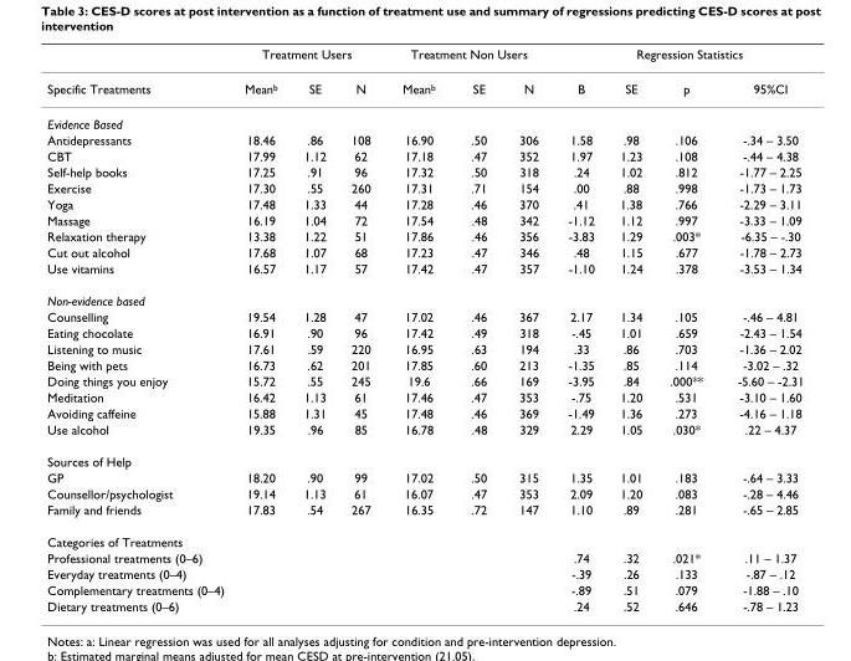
<table><thead><tr><td rowspan="2">Specific Treatments</td><td colspan="3">Treatment Users</td><td colspan="3">Treatment Non Users</td><td colspan="4">Regression Statistics</td></tr><tr><td>Mean<sup>b</sup></td><td>SE</td><td>N</td><td>Mean<sup>b</sup></td><td>SE</td><td>N</td><td>B</td><td>SE</td><td>p</td><td>95%CI</td></tr></thead><tbody><tr><td colspan="11">Evidence Based</td></tr><tr><td>Antidepressants</td><td>18.46</td><td>.86</td><td>108</td><td>16.90</td><td>.50</td><td>306</td><td>1.58</td><td>.98</td><td>.106</td><td>-.34 – 3.50</td></tr><tr><td>CBT</td><td>17.99</td><td>1.12</td><td>62</td><td>17.18</td><td>.47</td><td>352</td><td>1.97</td><td>1.23</td><td>.108</td><td>-.44 – 4.38</td></tr><tr><td>Self-help books</td><td>17.25</td><td>.91</td><td>96</td><td>17.32</td><td>.50</td><td>318</td><td>.24</td><td>1.02</td><td>.812</td><td>-1.77 – 2.25</td></tr><tr><td>Exercise</td><td>17.30</td><td>.55</td><td>260</td><td>17.31</td><td>.71</td><td>154</td><td>.00</td><td>.88</td><td>.998</td><td>-1.73 – 1.73</td></tr><tr><td>Yoga</td><td>17.48</td><td>1.33</td><td>44</td><td>17.28</td><td>.46</td><td>370</td><td>.41</td><td>1.38</td><td>.766</td><td>-2.29 – 3.11</td></tr><tr><td>Massage</td><td>16.19</td><td>1.04</td><td>72</td><td>17.54</td><td>.48</td><td>342</td><td>-1.12</td><td>1.12</td><td>.997</td><td>-3.33 – 1.09</td></tr><tr><td>Relaxation therapy</td><td>13.38</td><td>1.22</td><td>51</td><td>17.86</td><td>.46</td><td>356</td><td>-3.83</td><td>1.29</td><td>.003*</td><td>-6.35 – -.30</td></tr><tr><td>Cut out alcohol</td><td>17.68</td><td>1.07</td><td>68</td><td>17.23</td><td>.47</td><td>346</td><td>.48</td><td>1.15</td><td>.677</td><td>-1.78 – 2.73</td></tr><tr><td>Use vitamins</td><td>16.57</td><td>1.17</td><td>57</td><td>17.42</td><td>.47</td><td>357</td><td>-1.10</td><td>1.24</td><td>.378</td><td>-3.53 – 1.34</td></tr><tr><td colspan="11">Non-evidence based</td></tr><tr><td>Counselling</td><td>19.54</td><td>1.28</td><td>47</td><td>17.02</td><td>.46</td><td>367</td><td>2.17</td><td>1.34</td><td>.105</td><td>-.46 – 4.81</td></tr><tr><td>Eating chocolate</td><td>16.91</td><td>.90</td><td>96</td><td>17.42</td><td>.49</td><td>318</td><td>-.45</td><td>1.01</td><td>.659</td><td>-2.43 – 1.54</td></tr><tr><td>Listening to music</td><td>17.61</td><td>.59</td><td>220</td><td>16.95</td><td>.63</td><td>194</td><td>.33</td><td>.86</td><td>.703</td><td>-1.36 – 2.02</td></tr><tr><td>Being with pets</td><td>16.73</td><td>.62</td><td>201</td><td>17.85</td><td>.60</td><td>213</td><td>-1.35</td><td>.85</td><td>.114</td><td>-3.02 – .32</td></tr><tr><td>Doing things you enjoy</td><td>15.72</td><td>.55</td><td>245</td><td>19.6</td><td>.66</td><td>169</td><td>-3.95</td><td>.84</td><td>.000**</td><td>-5.60 – -2.31</td></tr><tr><td>Meditation</td><td>16.42</td><td>1.13</td><td>61</td><td>17.46</td><td>.47</td><td>353</td><td>-.75</td><td>1.20</td><td>.531</td><td>-3.10 – 1.60</td></tr><tr><td>Avoiding caffeine</td><td>15.88</td><td>1.31</td><td>45</td><td>17.48</td><td>.46</td><td>369</td><td>-1.49</td><td>1.36</td><td>.273</td><td>-4.16 – 1.18</td></tr><tr><td>Use alcohol</td><td>19.35</td><td>.96</td><td>85</td><td>16.78</td><td>.48</td><td>329</td><td>2.29</td><td>1.05</td><td>.030*</td><td>.22 – 4.37</td></tr><tr><td colspan="11">Sources of Help</td></tr><tr><td>GP</td><td>18.20</td><td>.90</td><td>99</td><td>17.02</td><td>.50</td><td>315</td><td>1.35</td><td>1.01</td><td>.183</td><td>-.64 – 3.33</td></tr><tr><td>Counsellor/psychologist</td><td>19.14</td><td>1.13</td><td>61</td><td>16.07</td><td>.47</td><td>353</td><td>2.09</td><td>1.20</td><td>.083</td><td>-.28 – 4.46</td></tr><tr><td>Family and friends</td><td>17.83</td><td>.54</td><td>267</td><td>16.35</td><td>.72</td><td>147</td><td>1.10</td><td>.89</td><td>.281</td><td>-.65 – 2.85</td></tr><tr><td colspan="11">Categories of Treatments</td></tr><tr><td>Professional treatments (0–6)</td><td></td><td></td><td></td><td></td><td></td><td></td><td>.74</td><td>.32</td><td>.021*</td><td>.11 – 1.37</td></tr><tr><td>Everyday treatments (0–4)</td><td></td><td></td><td></td><td></td><td></td><td></td><td>-.39</td><td>.26</td><td>.133</td><td>-.87 – .12</td></tr><tr><td>Complementary treatments (0–4)</td><td></td><td></td><td></td><td></td><td></td><td></td><td>-.89</td><td>.51</td><td>.079</td><td>-1.88 – .10</td></tr><tr><td>Dietary treatments (0–6)</td><td></td><td></td><td></td><td></td><td></td><td></td><td>.24</td><td>.52</td><td>.646</td><td>-.78 – 1.23</td></tr></tbody></table>